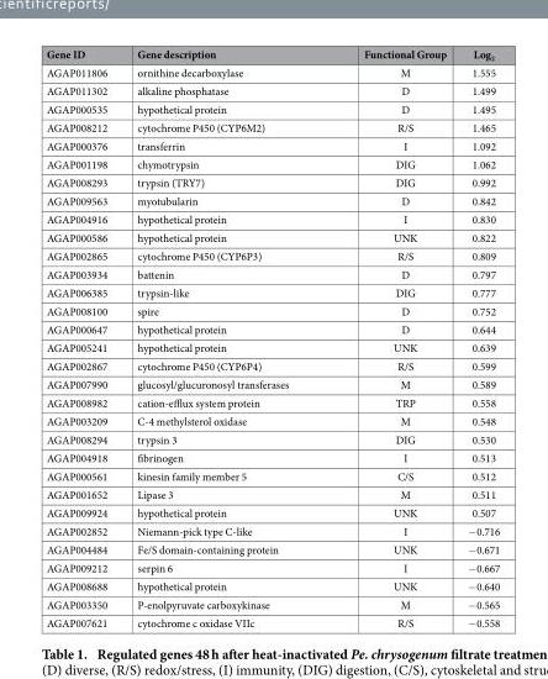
<table><thead><tr><td>Gene ID</td><td>Gene description</td><td>Functional Group</td><td>Log<sub>2</sub></td></tr></thead><tbody><tr><td>AGAP011806</td><td>ornithine decarboxylase</td><td>M</td><td>1.555</td></tr><tr><td>AGAP011302</td><td>alkaline phosphatase</td><td>D</td><td>1.499</td></tr><tr><td>AGAP000535</td><td>hypothetical protein</td><td>D</td><td>1.495</td></tr><tr><td>AGAP008212</td><td>cytochrome P450 (CYP6M2)</td><td>R/S</td><td>1.465</td></tr><tr><td>AGAP000376</td><td>transferrin</td><td>I</td><td>1.092</td></tr><tr><td>AGAP001198</td><td>chymotrypsin</td><td>DIG</td><td>1.062</td></tr><tr><td>AGAP008293</td><td>trypsin (TRY7)</td><td>DIG</td><td>0.992</td></tr><tr><td>AGAP009563</td><td>myotubularin</td><td>D</td><td>0.842</td></tr><tr><td>AGAP004916</td><td>hypothetical protein</td><td>I</td><td>0.830</td></tr><tr><td>AGAP000586</td><td>hypothetical protein</td><td>UNK</td><td>0.822</td></tr><tr><td>AGAP002865</td><td>cytochrome P450 (CYP6P3)</td><td>R/S</td><td>0.809</td></tr><tr><td>AGAP003934</td><td>battenin</td><td>D</td><td>0.797</td></tr><tr><td>AGAP006385</td><td>trypsin-like</td><td>DIG</td><td>0.777</td></tr><tr><td>AGAP008100</td><td>spire</td><td>D</td><td>0.752</td></tr><tr><td>AGAP000647</td><td>hypothetical protein</td><td>D</td><td>0.644</td></tr><tr><td>AGAP005241</td><td>hypothetical protein</td><td>UNK</td><td>0.639</td></tr><tr><td>AGAP002867</td><td>cytochrome P450 (CYP6P4)</td><td>R/S</td><td>0.599</td></tr><tr><td>AGAP007990</td><td>glucosyl/glucuronosyl transferases</td><td>M</td><td>0.589</td></tr><tr><td>AGAP008982</td><td>cation-efflux system protein</td><td>TRP</td><td>0.558</td></tr><tr><td>AGAP003209</td><td>C-4 methylsterol oxidase</td><td>M</td><td>0.548</td></tr><tr><td>AGAP008294</td><td>trypsin 3</td><td>DIG</td><td>0.530</td></tr><tr><td>AGAP004918</td><td>fibrinogen</td><td>I</td><td>0.513</td></tr><tr><td>AGAP000561</td><td>kinesin family member 5</td><td>C/S</td><td>0.512</td></tr><tr><td>AGAP001652</td><td>Lipase 3</td><td>M</td><td>0.511</td></tr><tr><td>AGAP009924</td><td>hypothetical protein</td><td>UNK</td><td>0.507</td></tr><tr><td>AGAP002852</td><td>Niemann-pick type C-like</td><td>I</td><td>− 0.716</td></tr><tr><td>AGAP004484</td><td>Fe/S domain-containing protein</td><td>UNK</td><td>− 0.671</td></tr><tr><td>AGAP009212</td><td>serpin 6</td><td>I</td><td>− 0.667</td></tr><tr><td>AGAP008688</td><td>hypothetical protein</td><td>UNK</td><td>− 0.640</td></tr><tr><td>AGAP003350</td><td>P-enolpyruvate carboxykinase</td><td>M</td><td>− 0.565</td></tr><tr><td>AGAP007621</td><td>cytochrome c oxidase VIIc</td><td>R/S</td><td>− 0.558</td></tr></tbody></table>